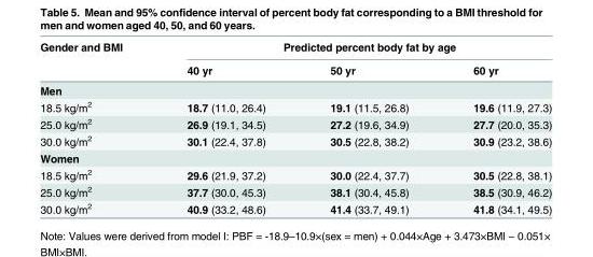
<table><thead><tr><td rowspan="2">Gender and BMI</td><td colspan="3">Predicted percent body fat by age</td></tr><tr><td>40 yr</td><td>50 yr</td><td>60 yr</td></tr></thead><tbody><tr><td colspan="4">Men</td></tr><tr><td>18.5 kg/m<sup>2</sup></td><td>18.7 (11.0, 26.4)</td><td>19.1 (11.5, 26.8)</td><td>19.6 (11.9, 27.3)</td></tr><tr><td>25.0 kg/m<sup>2</sup></td><td>26.9 (19.1, 34.5)</td><td>27.2 (19.6, 34.9)</td><td>27.7 (20.0, 35.3)</td></tr><tr><td>30.0 kg/m<sup>2</sup></td><td>30.1 (22.4, 37.8)</td><td>30.5 (22.8, 38.2)</td><td>30.9 (23.2, 38.6)</td></tr><tr><td colspan="4">Women</td></tr><tr><td>18.5 kg/m<sup>2</sup></td><td>29.6 (21.9, 37.2)</td><td>30.0 (22.4, 37.7)</td><td>30.5 (22.8, 38.1)</td></tr><tr><td>25.0 kg/m<sup>2</sup></td><td>37.7 (30.0, 45.3)</td><td>38.1 (30.4, 45.8)</td><td>38.5 (30.9, 46.2)</td></tr><tr><td>30.0 kg/m<sup>2</sup></td><td>40.9 (33.2, 48.6)</td><td>41.4 (33.7, 49.1)</td><td>41.8 (34.1, 49.5)</td></tr></tbody></table>